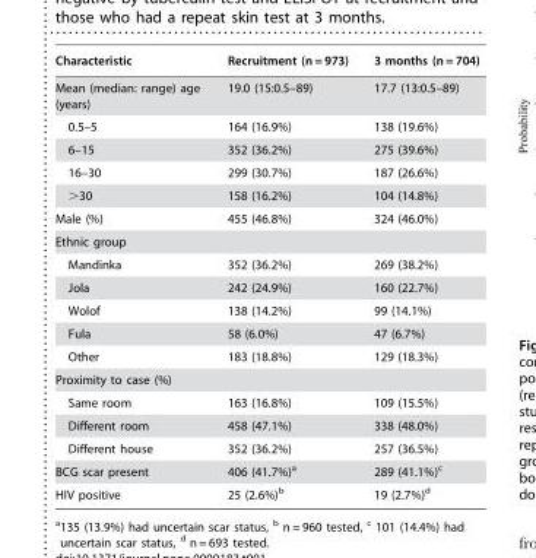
<table><thead><tr><td>Characteristic</td><td>Recruitment (n = 973)</td><td>3 months (n = 704)</td></tr></thead><tbody><tr><td>Mean (median: range) age (years)</td><td>19.0 (15:0.5–89)</td><td>17.7 (13:0.5–89)</td></tr><tr><td>0.5–5</td><td>164 (16.9%)</td><td>138 (19.6%)</td></tr><tr><td>6–15</td><td>352 (36.2%)</td><td>275 (39.6%)</td></tr><tr><td>16–30</td><td>299 (30.7%)</td><td>187 (26.6%)</td></tr><tr><td>&gt;30</td><td>158 (16.2%)</td><td>104 (14.8%)</td></tr><tr><td>Male (%)</td><td>455 (46.8%)</td><td>324 (46.0%)</td></tr><tr><td colspan="3">Ethnic group</td></tr><tr><td>Mandinka</td><td>352 (36.2%)</td><td>269 (38.2%)</td></tr><tr><td>Jola</td><td>242 (24.9%)</td><td>160 (22.7%)</td></tr><tr><td>Wolof</td><td>138 (14.2%)</td><td>99 (14.1%)</td></tr><tr><td>Fula</td><td>58 (6.0%)</td><td>47 (6.7%)</td></tr><tr><td>Other</td><td>183 (18.8%)</td><td>129 (18.3%)</td></tr><tr><td colspan="3">Proximity to case (%)</td></tr><tr><td>Same room</td><td>163 (16.8%)</td><td>109 (15.5%)</td></tr><tr><td>Different room</td><td>458 (47.1%)</td><td>338 (48.0%)</td></tr><tr><td>Different house</td><td>352 (36.2%)</td><td>257 (36.5%)</td></tr><tr><td>BCG scar present</td><td>406 (41.7%)<sup>a</sup></td><td>289 (41.1%)<sup>c</sup></td></tr><tr><td>HIV positive</td><td>25 (2.6%)<sup>b</sup></td><td>19 (2.7%)<sup>d</sup></td></tr></tbody></table>